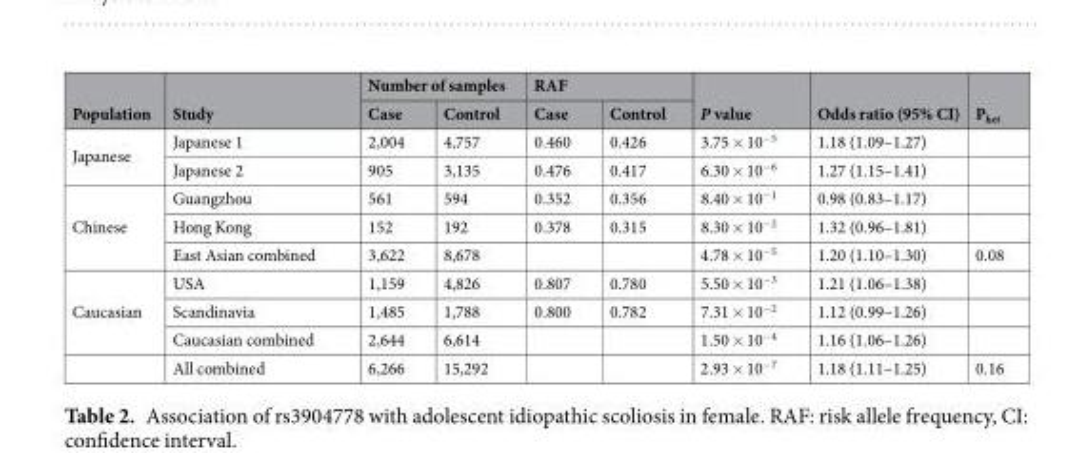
<table><thead><tr><td rowspan="2">Population</td><td rowspan="2">Study</td><td colspan="2">Number of samples</td><td colspan="2">RAF</td><td rowspan="2">P value</td><td rowspan="2">Odds ratio (95% CI)</td><td rowspan="2">P<sub>het</sub></td></tr><tr><td>Case</td><td>Control</td><td>Case</td><td>Control</td></tr></thead><tbody><tr><td rowspan="2">Japanese</td><td>Japanese 1</td><td>2,004</td><td>4,757</td><td>0.460</td><td>0.426</td><td>3.75 × 10<sup>−5</sup></td><td>1.18 (1.09–1.27)</td><td></td></tr><tr><td>Japanese 2</td><td>905</td><td>3,135</td><td>0.476</td><td>0.417</td><td>6.30 × 10<sup>−6</sup></td><td>1.27 (1.15–1.41)</td><td></td></tr><tr><td rowspan="3">Chinese</td><td>Guangzhou</td><td>561</td><td>594</td><td>0.352</td><td>0.356</td><td>8.40 × 10<sup>−1</sup></td><td>0.98 (0.83–1.17)</td><td></td></tr><tr><td>Hong Kong</td><td>152</td><td>192</td><td>0.378</td><td>0.315</td><td>8.30 × 10<sup>−2</sup></td><td>1.32 (0.96–1.81)</td><td></td></tr><tr><td>East Asian combined</td><td>3,622</td><td>8,678</td><td></td><td></td><td>4.78 × 10<sup>−5</sup></td><td>1.20 (1.10–1.30)</td><td>0.08</td></tr><tr><td rowspan="4">Caucasian</td><td>USA</td><td>1,159</td><td>4,826</td><td>0.807</td><td>0.780</td><td>5.50 × 10<sup>−3</sup></td><td>1.21 (1.06–1.38)</td><td></td></tr><tr><td>Scandinavia</td><td>1,485</td><td>1,788</td><td>0.800</td><td>0.782</td><td>7.31 × 10<sup>−2</sup></td><td>1.12 (0.99–1.26)</td><td></td></tr><tr><td>Caucasian combined</td><td>2,644</td><td>6,614</td><td></td><td></td><td>1.50 × 10<sup>−4</sup></td><td>1.16 (1.06–1.26)</td><td></td></tr><tr><td>All combined</td><td>6,266</td><td>15,292</td><td></td><td></td><td>2.93 × 10<sup>−7</sup></td><td>1.18 (1.11–1.25)</td><td>0.16</td></tr></tbody></table>